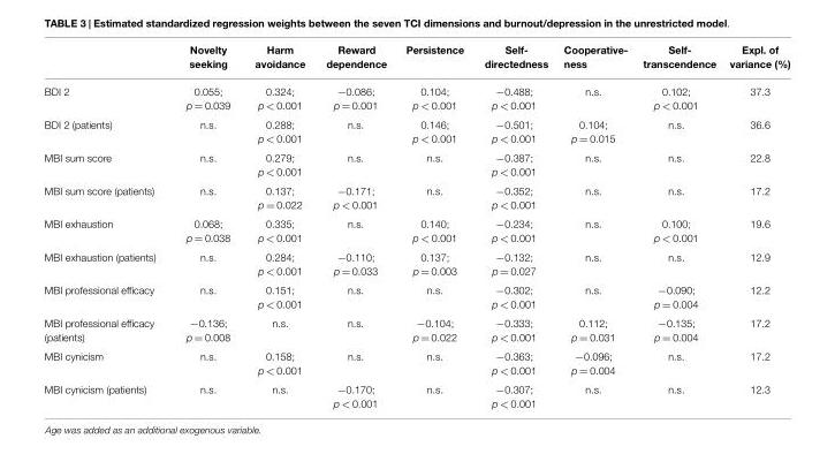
<table><thead><tr><td></td><td>Novelty seeking</td><td>Harm avoidance</td><td>Reward dependence</td><td>Persistence</td><td>Self- directedness</td><td>Cooperative- ness</td><td>Self- transcendence</td><td>Expl. of variance (%)</td></tr></thead><tbody><tr><td>BDI 2</td><td>0.055; p = 0.039</td><td>0.324; p &lt; 0.001</td><td>−0.086; p = 0.001</td><td>0.104; p &lt; 0.001</td><td>−0.488; p &lt; 0.001</td><td>n.s.</td><td>0.102; p &lt; 0.001</td><td>37.3</td></tr><tr><td>BDI 2 (patients)</td><td>n.s.</td><td>0.288; p &lt; 0.001</td><td>n.s.</td><td>0.146; p &lt; 0.001</td><td>−0.501; p &lt; 0.001</td><td>0.104; p = 0.015</td><td>n.s.</td><td>36.6</td></tr><tr><td>MBI sum score</td><td>n.s.</td><td>0.279; p &lt; 0.001</td><td>n.s.</td><td>n.s.</td><td>−0.387; p &lt; 0.001</td><td>n.s.</td><td>n.s.</td><td>22.8</td></tr><tr><td>MBI sum score (patients)</td><td>n.s.</td><td>0.137; p = 0.022</td><td>−0.171; p &lt; 0.001</td><td>n.s.</td><td>−0.352; p &lt; 0.001</td><td>n.s.</td><td>n.s.</td><td>17.2</td></tr><tr><td>MBI exhaustion</td><td>0.068; p = 0.038</td><td>0.335; p &lt; 0.001</td><td>n.s.</td><td>0.140; p &lt; 0.001</td><td>−0.234; p &lt; 0.001</td><td>n.s.</td><td>0.100; p &lt; 0.001</td><td>19.6</td></tr><tr><td>MBI exhaustion (patients)</td><td>n.s.</td><td>0.284; p &lt; 0.001</td><td>−0.110; p = 0.033</td><td>0.137; p = 0.003</td><td>−0.132; p = 0.027</td><td>n.s.</td><td>n.s.</td><td>12.9</td></tr><tr><td>MBI professional efficacy</td><td>n.s.</td><td>0.151; p &lt; 0.001</td><td>n.s.</td><td>n.s.</td><td>−0.302; p &lt; 0.001</td><td>n.s.</td><td>−0.090; p = 0.004</td><td>12.2</td></tr><tr><td>MBI professional efficacy (patients)</td><td>−0.136; p = 0.008</td><td>n.s.</td><td>n.s.</td><td>−0.104; p = 0.022</td><td>−0.333; p &lt; 0.001</td><td>0.112; p = 0.031</td><td>−0.135; p = 0.004</td><td>17.2</td></tr><tr><td>MBI cynicism</td><td>n.s.</td><td>0.158; p &lt; 0.001</td><td>n.s.</td><td>n.s.</td><td>−0.363; p &lt; 0.001</td><td>−0.096; p = 0.004</td><td>n.s.</td><td>17.2</td></tr><tr><td>MBI cynicism (patients)</td><td>n.s.</td><td>n.s.</td><td>−0.170; p &lt; 0.001</td><td>n.s.</td><td>−0.307; p &lt; 0.001</td><td>n.s.</td><td>n.s.</td><td>12.3</td></tr></tbody></table>